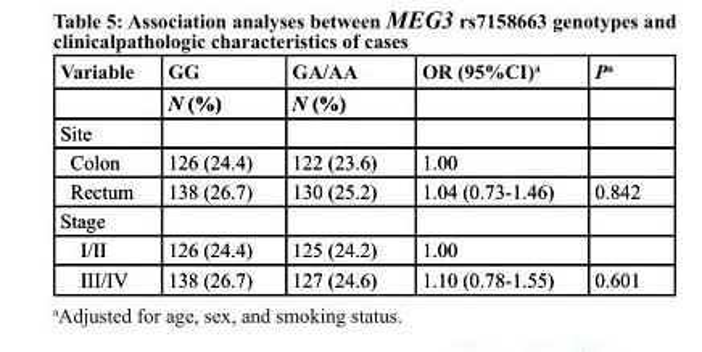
<table><thead><tr><td rowspan="2">Variable</td><td rowspan="2">GG N (%)</td><td rowspan="2">GA/AA N (%)</td><td rowspan="2">or (95%cI)<sup>a</sup></td><td rowspan="2">P<sup>a</sup></td></tr><tr></tr></thead><tbody><tr><td colspan="5">Site</td></tr><tr><td>Colon</td><td>126 (24.4)</td><td>122 (23.6)</td><td>1.00</td><td></td></tr><tr><td>Rectum</td><td>138 (26.7)</td><td>130 (25.2)</td><td>1.04 (0.73-1.46)</td><td>0.842</td></tr><tr><td colspan="5">Stage</td></tr><tr><td>I/II</td><td>126 (24.4)</td><td>125 (24.2)</td><td>1.00</td><td></td></tr><tr><td>III/IV</td><td>138 (26.7)</td><td>127 (24.6)</td><td>1.10 (0.78-1.55)</td><td>0.601</td></tr></tbody></table>